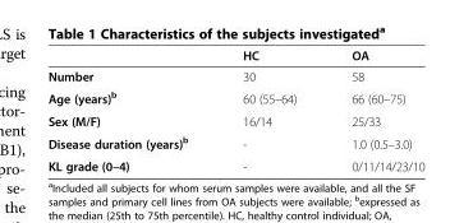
<table><thead><tr><td></td><td>HC</td><td>OA</td></tr></thead><tbody><tr><td>Number</td><td>30</td><td>58</td></tr><tr><td>Age (years)<sup>b</sup></td><td>60 (55–64)</td><td>66 (60–75)</td></tr><tr><td>Sex (M/F)</td><td>16/14</td><td>25/33</td></tr><tr><td>Disease duration (years)<sup>b</sup></td><td>-</td><td>1.0 (0.5–3.0)</td></tr><tr><td>KL grade (0–4)</td><td>-</td><td>0/11/14/23/10</td></tr></tbody></table>